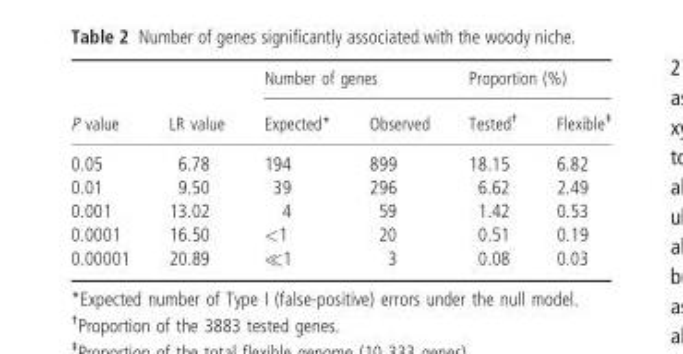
<table><thead><tr><td rowspan="2">P value</td><td rowspan="2">LR value</td><td colspan="2">Number of genes</td><td colspan="2">Proportion (%)</td></tr><tr><td>Expected*</td><td>Observed</td><td>Tested<sup>†</sup></td><td>Flexible<sup>‡</sup></td></tr></thead><tbody><tr><td>0.05</td><td>6.78</td><td>194</td><td>899</td><td>18.15</td><td>6.82</td></tr><tr><td>0.01</td><td>9.50</td><td>39</td><td>296</td><td>6.62</td><td>2.49</td></tr><tr><td>0.001</td><td>13.02</td><td>4</td><td>59</td><td>1.42</td><td>0.53</td></tr><tr><td>0.0001</td><td>16.50</td><td>&lt;1</td><td>20</td><td>0.51</td><td>0.19</td></tr><tr><td>0.00001</td><td>20.89</td><td>≪1</td><td>3</td><td>0.08</td><td>0.03</td></tr></tbody></table>